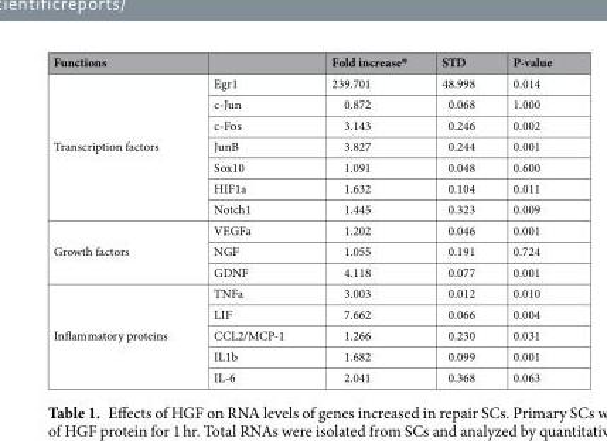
<table><thead><tr><td>Functions</td><td></td><td>Fold increase*</td><td>STD</td><td>P-value</td></tr></thead><tbody><tr><td rowspan="7">Transcription factors</td><td>Egr1</td><td>239.701</td><td>48.998</td><td>0.014</td></tr><tr><td>c-Jun</td><td>0.872</td><td>0.068</td><td>1.000</td></tr><tr><td>c-Fos</td><td>3.143</td><td>0.246</td><td>0.002</td></tr><tr><td>JunB</td><td>3.827</td><td>0.244</td><td>0.001</td></tr><tr><td>Sox10</td><td>1.091</td><td>0.048</td><td>0.600</td></tr><tr><td>HIF1a</td><td>1.632</td><td>0.104</td><td>0.011</td></tr><tr><td>Notch1</td><td>1.445</td><td>0.323</td><td>0.009</td></tr><tr><td rowspan="3">Growth factors</td><td>VEGFa</td><td>1.202</td><td>0.046</td><td>0.001</td></tr><tr><td>NGF</td><td>1.055</td><td>0.191</td><td>0.724</td></tr><tr><td>GDNF</td><td>4.118</td><td>0.077</td><td>0.001</td></tr><tr><td rowspan="5">Inflammatory proteins</td><td>TNFa</td><td>3.003</td><td>0.012</td><td>0.010</td></tr><tr><td>LIF</td><td>7.662</td><td>0.066</td><td>0.004</td></tr><tr><td>CCL2/MCP-1</td><td>1.266</td><td>0.230</td><td>0.031</td></tr><tr><td>IL1b</td><td>1.682</td><td>0.099</td><td>0.001</td></tr><tr><td>IL-6</td><td>2.041</td><td>0.368</td><td>0.063</td></tr></tbody></table>